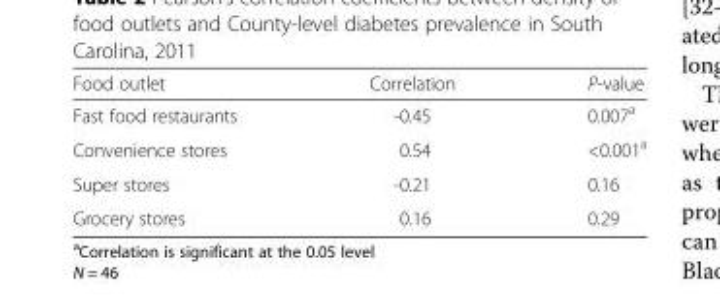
<table><thead><tr><td>Food outlet</td><td>Correlation</td><td>P-value</td></tr></thead><tbody><tr><td>Fast food restaurants</td><td>-0.45</td><td>0.007<sup>a</sup></td></tr><tr><td>Convenience stores</td><td>0.54</td><td>&lt;0.001<sup>a</sup></td></tr><tr><td>Super stores</td><td>-0.21</td><td>0.16</td></tr><tr><td>Grocery stores</td><td>0.16</td><td>0.29</td></tr></tbody></table>